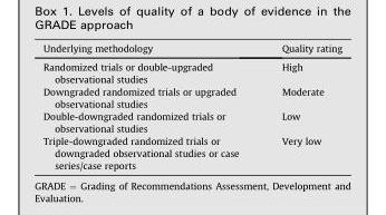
<table><thead><tr><td>Underlying methodology</td><td>Quality rating</td></tr></thead><tbody><tr><td>Randomized trials or double-upgraded observational studies</td><td>High</td></tr><tr><td>Downgraded randomized trials or upgraded observational studies</td><td>Moderate</td></tr><tr><td>Double-downgraded randomized trials or observational studies</td><td>Low</td></tr><tr><td>Triple-downgraded randomized trials or downgraded observational studies or case series/case reports</td><td>Very low</td></tr></tbody></table>